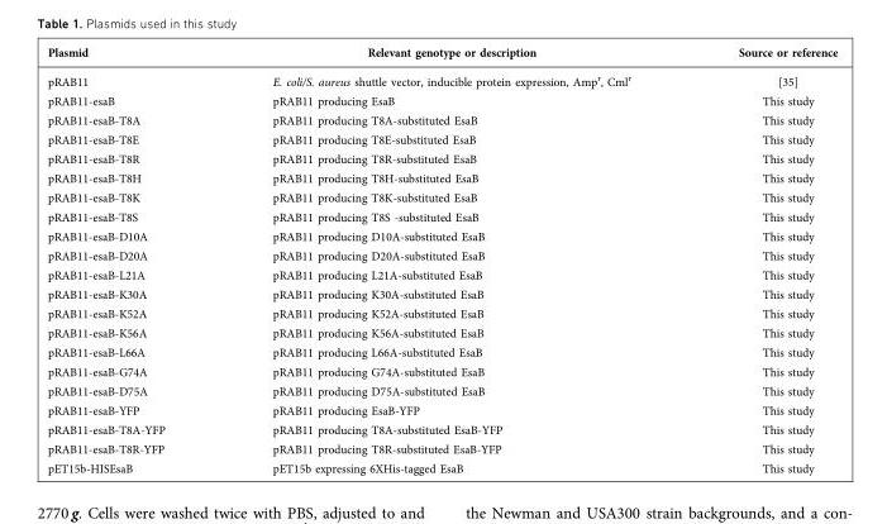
<table><thead><tr><td>Plasmid</td><td>Relevant genotype or description</td><td>Source or reference</td></tr></thead><tbody><tr><td>pRAB11</td><td>E. coli/S. aureus shuttle vector, inducible protein expression, Amp<sup>r</sup>, Cml<sup>r</sup></td><td>[35]</td></tr><tr><td>pRAB11-esaB</td><td>pRAB11 producing EsaB</td><td>This study</td></tr><tr><td>pRAB11-esaB-T8A</td><td>pRAB11 producing T8A-substituted EsaB</td><td>This study</td></tr><tr><td>pRAB11-esaB-T8E</td><td>pRAB11 producing T8E-substituted EsaB</td><td>This study</td></tr><tr><td>pRAB11-esaB-T8R</td><td>pRAB11 producing T8R-substituted EsaB</td><td>This study</td></tr><tr><td>pRAB11-esaB-T8H</td><td>pRAB11 producing T8H-substituted EsaB</td><td>This study</td></tr><tr><td>pRAB11-esaB-T8K</td><td>pRAB11 producing T8K-substituted EsaB</td><td>This study</td></tr><tr><td>pRAB11-esaB-T8S</td><td>pRAB11 producing T8S -substituted EsaB</td><td>This study</td></tr><tr><td>pRAB11-esaB-D10A</td><td>pRAB11 producing D10A-substituted EsaB</td><td>This study</td></tr><tr><td>pRAB11-esaB-D20A</td><td>pRAB11 producing D20A-substituted EsaB</td><td>This study</td></tr><tr><td>pRAB11-esaB-L21A</td><td>pRAB11 producing L21A-substituted EsaB</td><td>This study</td></tr><tr><td>pRAB11-esaB-K30A</td><td>pRAB11 producing K30A-substituted EsaB</td><td>This study</td></tr><tr><td>pRAB11-esaB-K52A</td><td>pRAB11 producing K52A-substituted EsaB</td><td>This study</td></tr><tr><td>pRAB11-esaB-K56A</td><td>pRAB11 producing K56A-substituted EsaB</td><td>This study</td></tr><tr><td>pRAB11-esaB-L66A</td><td>pRAB11 producing L66A-substituted EsaB</td><td>This study</td></tr><tr><td>pRAB11-esaB-G74A</td><td>pRAB11 producing G74A-substituted EsaB</td><td>This study</td></tr><tr><td>pRAB11-esaB-D75A</td><td>pRAB11 producing D75A-substituted EsaB</td><td>This study</td></tr><tr><td>pRAB11-esaB-YFP</td><td>pRAB11 producing EsaB-YFP</td><td>This study</td></tr><tr><td>pRAB11-esaB-T8A-YFP</td><td>pRAB11 producing T8A-substituted EsaB-YFP</td><td>This study</td></tr><tr><td>pRAB11-esaB-T8R-YFP</td><td>pRAB11 producing T8R-substituted EsaB-YFP</td><td>This study</td></tr><tr><td>pET15b-HISEsaB</td><td>pET15b expressing 6XHis-tagged EsaB</td><td>This study</td></tr></tbody></table>